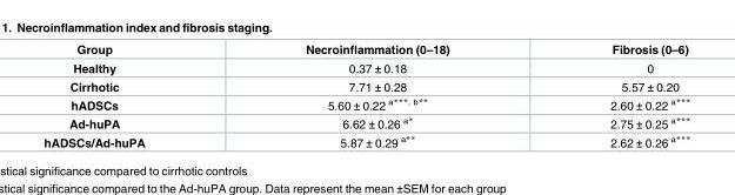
<table><thead><tr><td>Group</td><td>Necroinflammation (0–18)</td><td>Fibrosis (0–6)</td></tr></thead><tbody><tr><td>Healthy</td><td>0.37 ± 0.18</td><td>0</td></tr><tr><td>Cirrhotic</td><td>7.71 ± 0.28</td><td>5.57 ± 0.20</td></tr><tr><td>hADSCs</td><td>5.60 ± 0.22 <sup>a***, b**</sup></td><td>2.60 ± 0.22 <sup>a***</sup></td></tr><tr><td>Ad-huPA</td><td>6.62 ± 0.26 <sup>a*</sup></td><td>2.75 ± 0.25 <sup>a***</sup></td></tr><tr><td>hADSCs/Ad-huPA</td><td>5.87 ± 0.29 <sup>a**</sup></td><td>2.62 ± 0.26 <sup>a***</sup></td></tr></tbody></table>